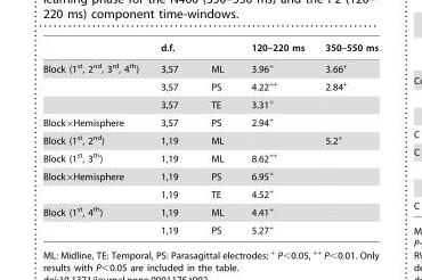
<table><thead><tr><td></td><td>d.f.</td><td></td><td>120–220 ms</td><td>350–550 ms</td></tr></thead><tbody><tr><td rowspan="3">Block (1<sup>st</sup>, 2<sup>nd</sup>, 3<sup>rd</sup>, 4<sup>th</sup>)</td><td>3,57</td><td>ML</td><td>3.96+</td><td>3.66+</td></tr><tr><td>3,57</td><td>PS</td><td>4.22++</td><td>2.84+</td></tr><tr><td>3,57</td><td>TE</td><td>3.31+</td><td></td></tr><tr><td>Block×Hemisphere</td><td>3,57</td><td>PS</td><td>2.94+</td><td></td></tr><tr><td>Block (1<sup>st</sup>, 2<sup>nd</sup>)</td><td>1,19</td><td>ML</td><td></td><td>5.2+</td></tr><tr><td>Block (1<sup>st</sup>, 3<sup>th</sup>)</td><td>1,19</td><td>ML</td><td>8.62++</td><td></td></tr><tr><td rowspan="2">Block×Hemisphere</td><td>1,19</td><td>PS</td><td>6.95+</td><td></td></tr><tr><td>1,19</td><td>TE</td><td>4.52+</td><td></td></tr><tr><td rowspan="2">Block (1<sup>st</sup>, 4<sup>th</sup>)</td><td>1,19</td><td>ML</td><td>4.41+</td><td></td></tr><tr><td>1,19</td><td>PS</td><td>5.27+</td><td></td></tr></tbody></table>